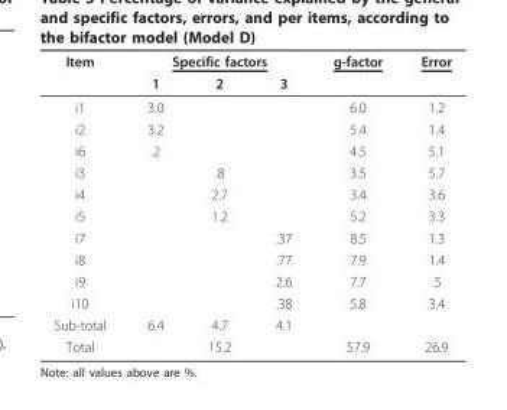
<table><thead><tr><td rowspan="2">Item</td><td colspan="3">Specific factors</td><td rowspan="2">g-factor</td><td rowspan="2">Error</td></tr><tr><td>1</td><td>2</td><td>3</td></tr></thead><tbody><tr><td>i1</td><td>3.0</td><td></td><td></td><td>6.0</td><td>1.2</td></tr><tr><td>i2</td><td>3.2</td><td></td><td></td><td>5.4</td><td>1.4</td></tr><tr><td>i6</td><td>.2</td><td></td><td></td><td>4.5</td><td>5.1</td></tr><tr><td>i3</td><td></td><td>.8</td><td></td><td>3.5</td><td>5.7</td></tr><tr><td>i4</td><td></td><td>2.7</td><td></td><td>3.4</td><td>3.6</td></tr><tr><td>i5</td><td></td><td>1.2</td><td></td><td>5.2</td><td>3.3</td></tr><tr><td>i7</td><td></td><td></td><td>.37</td><td>8.5</td><td>1.3</td></tr><tr><td>i8</td><td></td><td></td><td>.77</td><td>7.9</td><td>1.4</td></tr><tr><td>i9</td><td></td><td></td><td>2.6</td><td>7.7</td><td>.5</td></tr><tr><td>i10</td><td></td><td></td><td>.38</td><td>5.8</td><td>3.4</td></tr><tr><td>Sub-total</td><td>6.4</td><td>4.7</td><td>4.1</td><td></td><td></td></tr><tr><td>Total</td><td></td><td>15.2</td><td></td><td>57.9</td><td>26.9</td></tr></tbody></table>